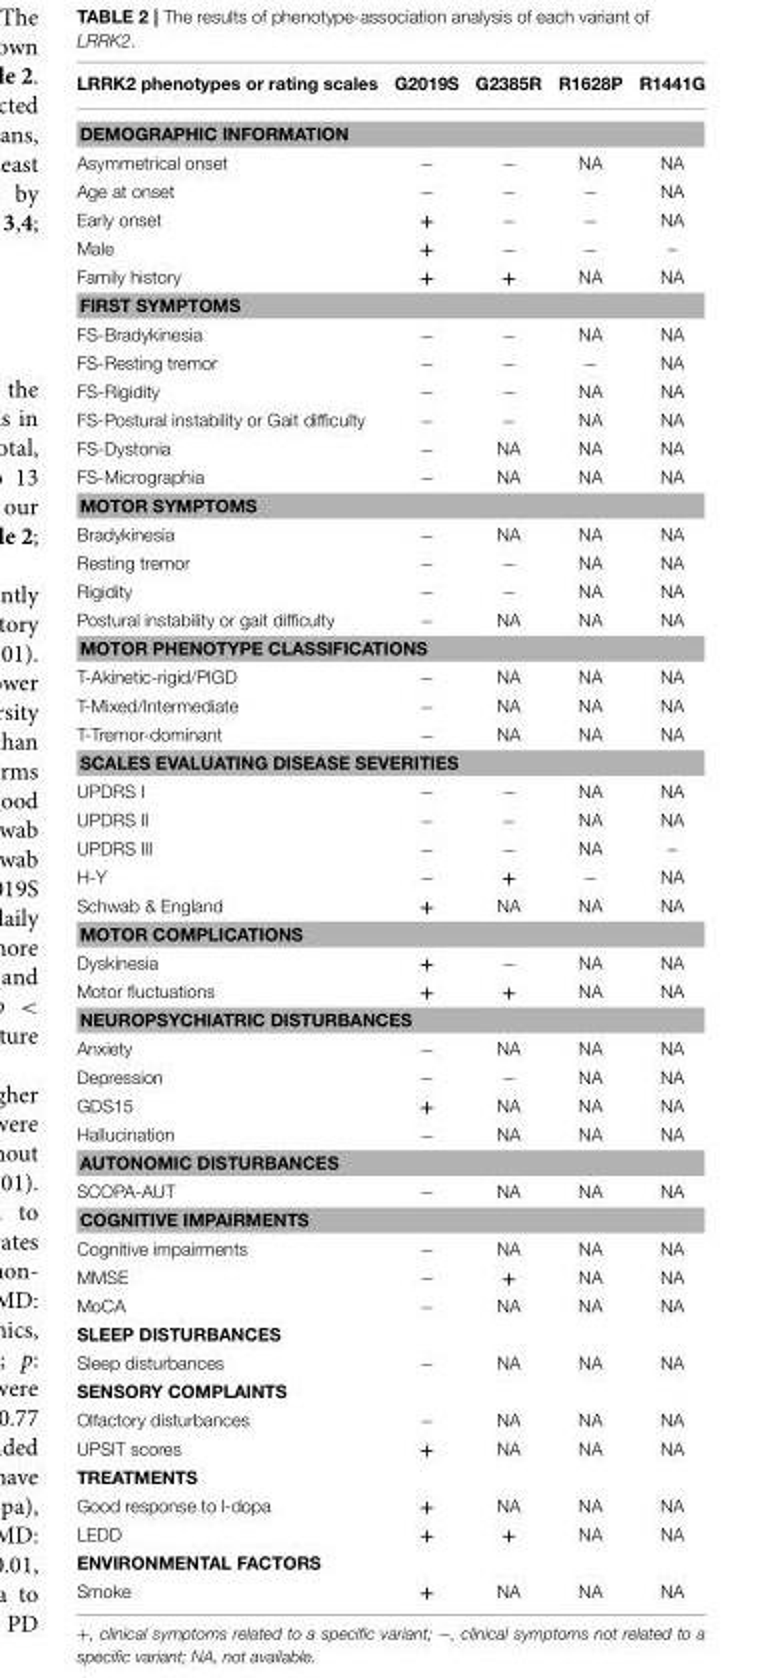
<table><thead><tr><td>LRRK2 phenotypes or rating scales</td><td>G2019S</td><td>G2385R</td><td>R1628P</td><td>R1441G</td></tr></thead><tbody><tr><td colspan="5">DEMOGRAPHIC INFORMATION</td></tr><tr><td>Asymmetrical onset</td><td>−</td><td>−</td><td>NA</td><td>NA</td></tr><tr><td>Age at onset</td><td>−</td><td>−</td><td>−</td><td>NA</td></tr><tr><td>Early onset</td><td>+</td><td>−</td><td>−</td><td>NA</td></tr><tr><td>Male</td><td>+</td><td>−</td><td>−</td><td>–</td></tr><tr><td>Family history</td><td>+</td><td>+</td><td>NA</td><td>NA</td></tr><tr><td colspan="5">FIRST SYMPTOMS</td></tr><tr><td>FS-Bradykinesia</td><td>−</td><td>−</td><td>NA</td><td>NA</td></tr><tr><td>FS-Resting tremor</td><td>−</td><td>−</td><td>−</td><td>NA</td></tr><tr><td>FS-Rigidity</td><td>−</td><td>−</td><td>NA</td><td>NA</td></tr><tr><td>FS-Postural instability or Gait difficulty</td><td>−</td><td>−</td><td>NA</td><td>NA</td></tr><tr><td>FS-Dystonia</td><td>−</td><td>NA</td><td>NA</td><td>NA</td></tr><tr><td>FS-Micrographia</td><td>−</td><td>NA</td><td>NA</td><td>NA</td></tr><tr><td colspan="5">MOTOR SYMPTOMS</td></tr><tr><td>Bradykinesia</td><td>−</td><td>NA</td><td>NA</td><td>NA</td></tr><tr><td>Resting tremor</td><td>−</td><td>−</td><td>NA</td><td>NA</td></tr><tr><td>Rigidity</td><td>−</td><td>−</td><td>NA</td><td>NA</td></tr><tr><td>Postural instability or gait difficulty</td><td>−</td><td>NA</td><td>NA</td><td>NA</td></tr><tr><td colspan="5">MOTOR PHENOTYPE CLASSIFICATIONS</td></tr><tr><td>T-Akinetic-rigid/PIGD</td><td>−</td><td>NA</td><td>NA</td><td>NA</td></tr><tr><td>T-Mixed/Intermediate</td><td>−</td><td>NA</td><td>NA</td><td>NA</td></tr><tr><td>T-Tremor-dominant</td><td>−</td><td>NA</td><td>NA</td><td>NA</td></tr><tr><td colspan="5">SCALES EVALUATING DISEASE SEVERITIES</td></tr><tr><td>UPDRS I</td><td>−</td><td>−</td><td>NA</td><td>NA</td></tr><tr><td>UPDRS II</td><td>−</td><td>−</td><td>NA</td><td>NA</td></tr><tr><td>UPDRS III</td><td>−</td><td>−</td><td>NA</td><td>–</td></tr><tr><td>H-Y</td><td>−</td><td>+</td><td>−</td><td>NA</td></tr><tr><td>Schwab &amp; England</td><td>+</td><td>NA</td><td>NA</td><td>NA</td></tr><tr><td colspan="5">MOTOR COMPLICATIONS</td></tr><tr><td>Dyskinesia</td><td>+</td><td>−</td><td>NA</td><td>NA</td></tr><tr><td>Motor fluctuations</td><td>+</td><td>+</td><td>NA</td><td>NA</td></tr><tr><td colspan="5">NEUROPSYCHIATRIC DISTURBANCES</td></tr><tr><td>Anxiety</td><td>−</td><td>NA</td><td>NA</td><td>NA</td></tr><tr><td>Depression</td><td>−</td><td>−</td><td>NA</td><td>NA</td></tr><tr><td>GDS15</td><td>+</td><td>NA</td><td>NA</td><td>NA</td></tr><tr><td>Hallucination</td><td>−</td><td>NA</td><td>NA</td><td>NA</td></tr><tr><td colspan="5">AUTONOMIC DISTURBANCES</td></tr><tr><td>SCOPA-AUT</td><td>−</td><td>NA</td><td>NA</td><td>NA</td></tr><tr><td colspan="5">COGNITIVE IMPAIRMENTS</td></tr><tr><td>Cognitive impairments</td><td>−</td><td>NA</td><td>NA</td><td>NA</td></tr><tr><td>MMSE</td><td>−</td><td>+</td><td>NA</td><td>NA</td></tr><tr><td>MoCA</td><td>−</td><td>NA</td><td>NA</td><td>NA</td></tr><tr><td colspan="5">SLEEP DISTURBANCES</td></tr><tr><td>Sleep disturbances</td><td>−</td><td>NA</td><td>NA</td><td>NA</td></tr><tr><td colspan="5">SENSORY COMPLAINTS</td></tr><tr><td>Olfactory disturbances</td><td>−</td><td>NA</td><td>NA</td><td>NA</td></tr><tr><td>UPSIT scores</td><td>+</td><td>NA</td><td>NA</td><td>NA</td></tr><tr><td colspan="5">TREATMENTS</td></tr><tr><td>Good response to l-dopa</td><td>+</td><td>NA</td><td>NA</td><td>NA</td></tr><tr><td>LEDD</td><td>+</td><td>+</td><td>NA</td><td>NA</td></tr><tr><td colspan="5">ENVIRONMENTAL FACTORS</td></tr><tr><td>Smoke</td><td>+</td><td>NA</td><td>NA</td><td>NA</td></tr></tbody></table>